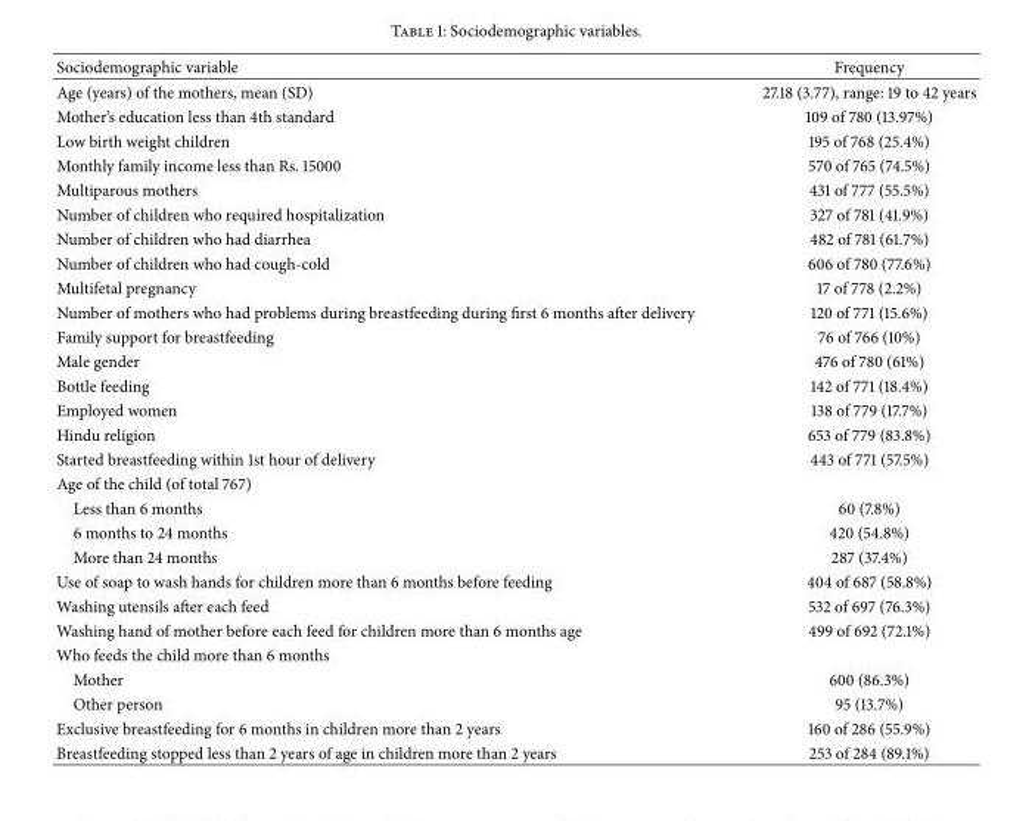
<table><thead><tr><td>Sociodemographic variable</td><td>Frequency</td></tr></thead><tbody><tr><td>Age (years) of the mothers, mean (SD)</td><td>27.18 (3.77), range: 19 to 42 years</td></tr><tr><td>Mother’s education less than 4th standard</td><td>109 of 780 (13.97%)</td></tr><tr><td>Low birth weight children</td><td>195 of 768 (25.4%)</td></tr><tr><td>Monthly family income less than Rs. 15000</td><td>570 of 765 (74.5%)</td></tr><tr><td>Multiparous mothers</td><td>431 of 777 (55.5%)</td></tr><tr><td>Number of children who required hospitalization</td><td>327 of 781 (41.9%)</td></tr><tr><td>Number of children who had diarrhea</td><td>482 of 781 (61.7%)</td></tr><tr><td>Number of children who had cough-cold</td><td>606 of 780 (77.6%)</td></tr><tr><td>Multifetal pregnancy</td><td>17 of 778 (2.2%)</td></tr><tr><td>Number of mothers who had problems during breastfeeding during first 6 months after delivery</td><td>120 of 771 (15.6%)</td></tr><tr><td>Family support for breastfeeding</td><td>76 of 766 (10%)</td></tr><tr><td>Male gender</td><td>476 of 780 (61%)</td></tr><tr><td>Bottle feeding</td><td>142 of 771 (18.4%)</td></tr><tr><td>Employed women</td><td>138 of 779 (17.7%)</td></tr><tr><td>Hindu religion</td><td>653 of 779 (83.8%)</td></tr><tr><td>Started breastfeeding within 1st hour of delivery</td><td>443 of 771 (57.5%)</td></tr><tr><td colspan="2">Age of the child (of total 767)</td></tr><tr><td>Less than 6 months</td><td>60 (7.8%)</td></tr><tr><td>6 months to 24 months</td><td>420 (54.8%)</td></tr><tr><td>More than 24 months</td><td>287 (37.4%)</td></tr><tr><td>Use of soap to wash hands for children more than 6 months before feeding</td><td>404 of 687 (58.8%)</td></tr><tr><td>Washing utensils after each feed</td><td>532 of 697 (76.3%)</td></tr><tr><td>Washing hand of mother before each feed for children more than 6 months age</td><td>499 of 692 (72.1%)</td></tr><tr><td colspan="2">Who feeds the child more than 6 months</td></tr><tr><td>Mother</td><td>600 (86.3%)</td></tr><tr><td>Other person</td><td>95 (13.7%)</td></tr><tr><td>Exclusive breastfeeding for 6 months in children more than 2 years</td><td>160 of 286 (55.9%)</td></tr><tr><td>Breastfeeding stopped less than 2 years of age in children more than 2 years</td><td>253 of 284 (89.1%)</td></tr></tbody></table>